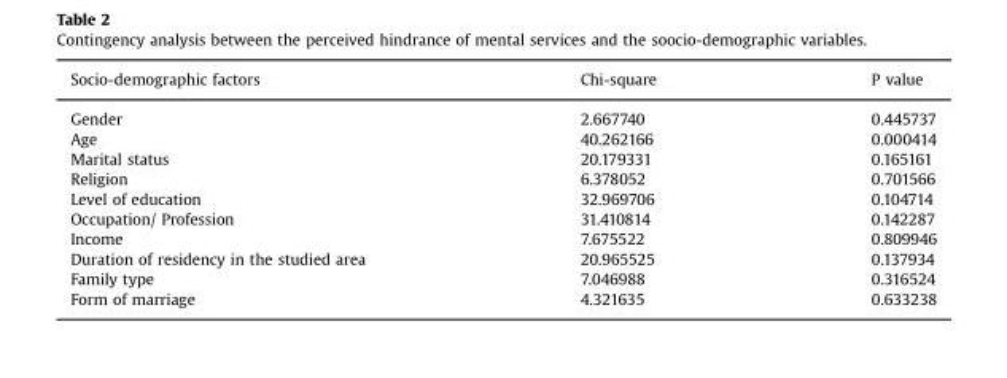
<table><thead><tr><td>Socio-demographic factors</td><td>Chi-square</td><td>P value</td></tr></thead><tbody><tr><td>Gender</td><td>2.667740</td><td>0.445737</td></tr><tr><td>Age</td><td>40.262166</td><td>0.000414</td></tr><tr><td>Marital status</td><td>20.179331</td><td>0.165161</td></tr><tr><td>Religion</td><td>6.378052</td><td>0.701566</td></tr><tr><td>Level of education</td><td>32.969706</td><td>0.104714</td></tr><tr><td>Occupation/ Profession</td><td>31.410814</td><td>0.142287</td></tr><tr><td>Income</td><td>7.675522</td><td>0.809946</td></tr><tr><td>Duration of residency in the studied area</td><td>20.965525</td><td>0.137934</td></tr><tr><td>Family type</td><td>7.046988</td><td>0.316524</td></tr><tr><td>Form of marriage</td><td>4.321635</td><td>0.633238</td></tr></tbody></table>